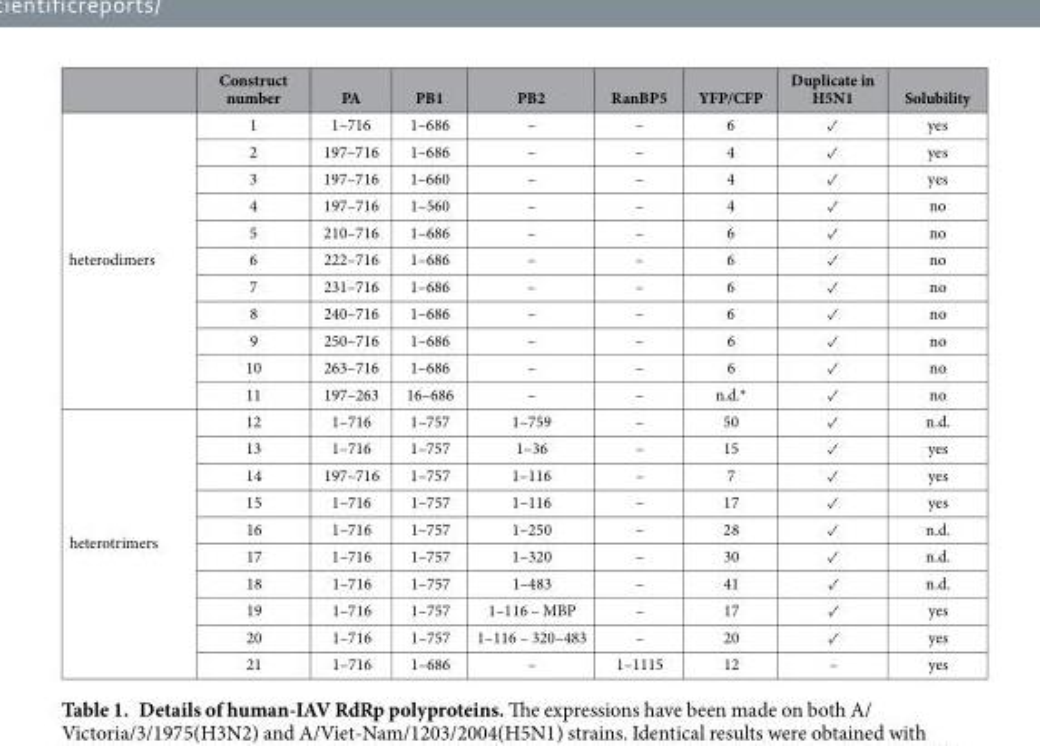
<table><thead><tr><td></td><td>Construct number</td><td>PA</td><td>PB1</td><td>PB2</td><td>RanBP5</td><td>YFP/CFP</td><td>Duplicate in H5N1</td><td>Solubility</td></tr></thead><tbody><tr><td rowspan="11">heterodimers</td><td>1</td><td>1–716</td><td>1–686</td><td>–</td><td>–</td><td>6</td><td>✓</td><td>yes</td></tr><tr><td>2</td><td>197–716</td><td>1–686</td><td>–</td><td>–</td><td>4</td><td>✓</td><td>yes</td></tr><tr><td>3</td><td>197–716</td><td>1–660</td><td>–</td><td>–</td><td>4</td><td>✓</td><td>yes</td></tr><tr><td>4</td><td>197–716</td><td>1–560</td><td>–</td><td>–</td><td>4</td><td>✓</td><td>no</td></tr><tr><td>5</td><td>210–716</td><td>1–686</td><td>–</td><td>–</td><td>6</td><td>✓</td><td>no</td></tr><tr><td>6</td><td>222–716</td><td>1–686</td><td>–</td><td>–</td><td>6</td><td>✓</td><td>no</td></tr><tr><td>7</td><td>231–716</td><td>1–686</td><td>–</td><td>–</td><td>6</td><td>✓</td><td>no</td></tr><tr><td>8</td><td>240–716</td><td>1–686</td><td>–</td><td>–</td><td>6</td><td>✓</td><td>no</td></tr><tr><td>9</td><td>250–716</td><td>1–686</td><td>–</td><td>–</td><td>6</td><td>✓</td><td>no</td></tr><tr><td>10</td><td>263–716</td><td>1–686</td><td>–</td><td>–</td><td>6</td><td>✓</td><td>no</td></tr><tr><td>11</td><td>197–263</td><td>16–686</td><td>–</td><td>–</td><td>n.d.*</td><td>✓</td><td>no</td></tr><tr><td rowspan="10">heterotrimers</td><td>12</td><td>1–716</td><td>1–757</td><td>1–759</td><td>–</td><td>50</td><td>✓</td><td>n.d.</td></tr><tr><td>13</td><td>1–716</td><td>1–757</td><td>1–36</td><td>–</td><td>15</td><td>✓</td><td>yes</td></tr><tr><td>14</td><td>197–716</td><td>1–757</td><td>1–116</td><td>–</td><td>7</td><td>✓</td><td>yes</td></tr><tr><td>15</td><td>1–716</td><td>1–757</td><td>1–116</td><td>–</td><td>17</td><td>✓</td><td>yes</td></tr><tr><td>16</td><td>1–716</td><td>1–757</td><td>1–250</td><td>–</td><td>28</td><td>✓</td><td>n.d.</td></tr><tr><td>17</td><td>1–716</td><td>1–757</td><td>1–320</td><td>–</td><td>30</td><td>✓</td><td>n.d.</td></tr><tr><td>18</td><td>1–716</td><td>1–757</td><td>1–483</td><td>–</td><td>41</td><td>✓</td><td>n.d.</td></tr><tr><td>19</td><td>1–716</td><td>1–757</td><td>1–116 – MBP</td><td>–</td><td>17</td><td>✓</td><td>yes</td></tr><tr><td>20</td><td>1–716</td><td>1–757</td><td>1–116 – 320–483</td><td>–</td><td>20</td><td>✓</td><td>yes</td></tr><tr><td>21</td><td>1–716</td><td>1–686</td><td>–</td><td>1–1115</td><td>12</td><td>–</td><td>yes</td></tr></tbody></table>